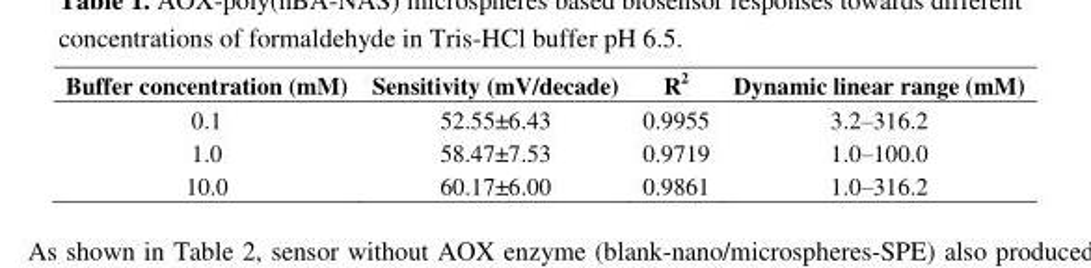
<table><thead><tr><td>Buffer concentration (mM)</td><td>Sensitivity (mV/decade)</td><td>R<sup>2</sup></td><td>Dynamic linear range (mM)</td></tr></thead><tbody><tr><td>0.1</td><td>52.55±6.43</td><td>0.9955</td><td>3.2–316.2</td></tr><tr><td>1.0</td><td>58.47±7.53</td><td>0.9719</td><td>1.0–100.0</td></tr><tr><td>10.0</td><td>60.17±6.00</td><td>0.9861</td><td>1.0–316.2</td></tr></tbody></table>